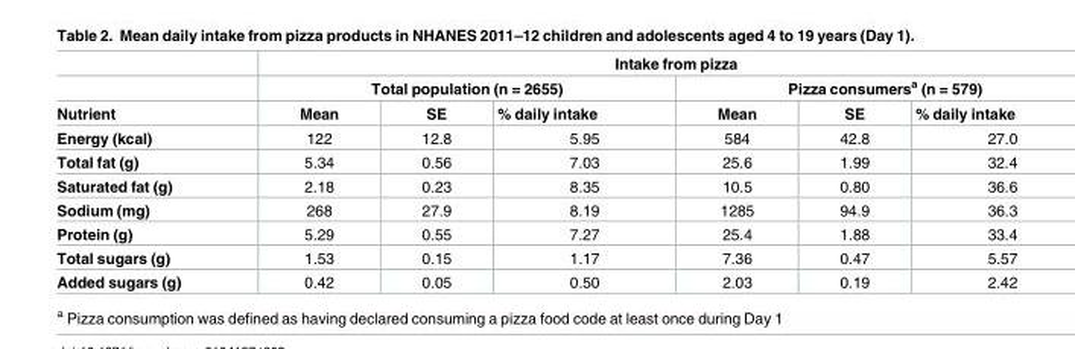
<table><thead><tr><td rowspan="3">Nutrient</td><td colspan="6">Intake from pizza</td></tr><tr><td colspan="3">Total population (n = 2655)</td><td colspan="3">Pizza consumers<sup>a</sup> (n = 579)</td></tr><tr><td>Mean</td><td>SE</td><td>% daily intake</td><td>Mean</td><td>SE</td><td>% daily intake</td></tr></thead><tbody><tr><td>Energy (kcal)</td><td>122</td><td>12.8</td><td>5.95</td><td>584</td><td>42.8</td><td>27.0</td></tr><tr><td>Total fat (g)</td><td>5.34</td><td>0.56</td><td>7.03</td><td>25.6</td><td>1.99</td><td>32.4</td></tr><tr><td>Saturated fat (g)</td><td>2.18</td><td>0.23</td><td>8.35</td><td>10.5</td><td>0.80</td><td>36.6</td></tr><tr><td>Sodium (mg)</td><td>268</td><td>27.9</td><td>8.19</td><td>1285</td><td>94.9</td><td>36.3</td></tr><tr><td>Protein (g)</td><td>5.29</td><td>0.55</td><td>7.27</td><td>25.4</td><td>1.88</td><td>33.4</td></tr><tr><td>Total sugars (g)</td><td>1.53</td><td>0.15</td><td>1.17</td><td>7.36</td><td>0.47</td><td>5.57</td></tr><tr><td>Added sugars (g)</td><td>0.42</td><td>0.05</td><td>0.50</td><td>2.03</td><td>0.19</td><td>2.42</td></tr></tbody></table>